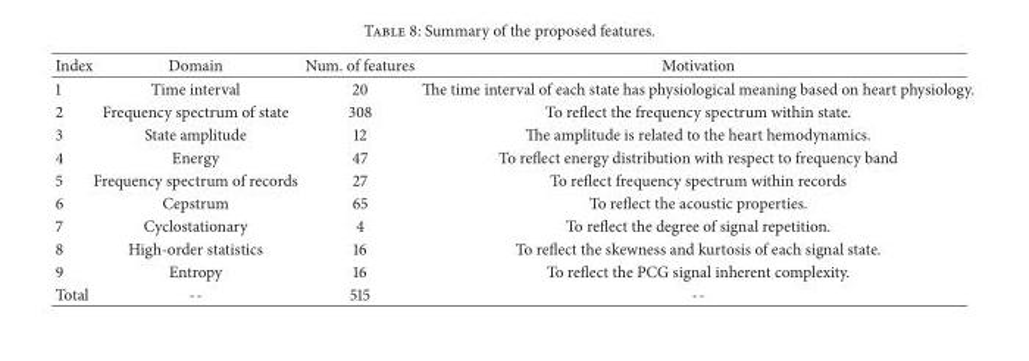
<table><thead><tr><td>Index</td><td>Domain</td><td>Num. of features</td><td>Motivation</td></tr></thead><tbody><tr><td>1</td><td>Time interval</td><td>20</td><td>The time interval of each state has physiological meaning based on heart physiology.</td></tr><tr><td>2</td><td>Frequency spectrum of state</td><td>308</td><td>To reflect the frequency spectrum within state.</td></tr><tr><td>3</td><td>State amplitude</td><td>12</td><td>The amplitude is related to the heart hemodynamics.</td></tr><tr><td>4</td><td>Energy</td><td>47</td><td>To reflect energy distribution with respect to frequency band</td></tr><tr><td>5</td><td>Frequency spectrum of records</td><td>27</td><td>To reflect frequency spectrum within records</td></tr><tr><td>6</td><td>Cepstrum</td><td>65</td><td>To reflect the acoustic properties.</td></tr><tr><td>7</td><td>Cyclostationary</td><td>4</td><td>To reflect the degree of signal repetition.</td></tr><tr><td>8</td><td>High-order statistics</td><td>16</td><td>To reflect the skewness and kurtosis of each signal state.</td></tr><tr><td>9</td><td>Entropy</td><td>16</td><td>To reflect the PCG signal inherent complexity.</td></tr><tr><td>Total</td><td>--</td><td>515</td><td>--</td></tr></tbody></table>